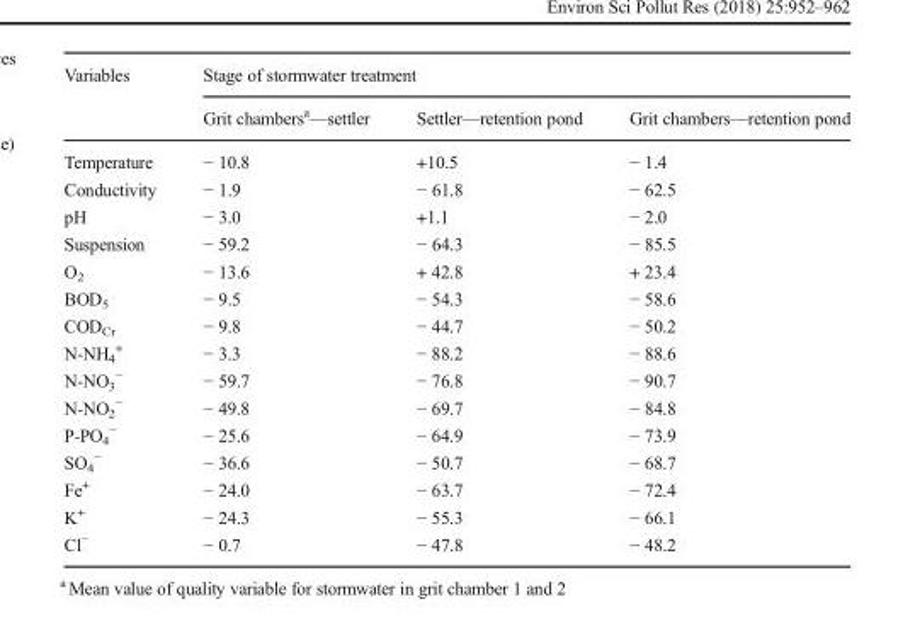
<table><thead><tr><td rowspan="2">Variables</td><td colspan="3">Stage of stormwater treatment</td></tr><tr><td>Grit chambers<sup>a</sup>—settler</td><td>Settler—retention pond</td><td>Grit chambers—retention pond</td></tr></thead><tbody><tr><td>Temperature</td><td>− 10.8</td><td>+10.5</td><td>− 1.4</td></tr><tr><td>Conductivity</td><td>− 1.9</td><td>− 61.8</td><td>− 62.5</td></tr><tr><td>pH</td><td>− 3.0</td><td>+1.1</td><td>− 2.0</td></tr><tr><td>Suspension</td><td>− 59.2</td><td>− 64.3</td><td>− 85.5</td></tr><tr><td>O<sub>2</sub></td><td>− 13.6</td><td>+ 42.8</td><td>+ 23.4</td></tr><tr><td>BOD<sub>5</sub></td><td>− 9.5</td><td>− 54.3</td><td>− 58.6</td></tr><tr><td>COD<sub>Cr</sub></td><td>− 9.8</td><td>− 44.7</td><td>− 50.2</td></tr><tr><td>N-NH<sub>4</sub> <sup>+</sup></td><td>− 3.3</td><td>− 88.2</td><td>− 88.6</td></tr><tr><td>N-NO<sub>3</sub> <sup>−</sup></td><td>− 59.7</td><td>− 76.8</td><td>− 90.7</td></tr><tr><td>N-NO<sub>2</sub> <sup>−</sup></td><td>− 49.8</td><td>− 69.7</td><td>− 84.8</td></tr><tr><td>P-PO<sub>4</sub> <sup>−</sup></td><td>− 25.6</td><td>− 64.9</td><td>− 73.9</td></tr><tr><td>SO<sub>4</sub> <sup>−</sup></td><td>− 36.6</td><td>− 50.7</td><td>− 68.7</td></tr><tr><td>Fe<sup>+</sup></td><td>− 24.0</td><td>− 63.7</td><td>− 72.4</td></tr><tr><td>K<sup>+</sup></td><td>− 24.3</td><td>− 55.3</td><td>− 66.1</td></tr><tr><td>Cl<sup>−</sup></td><td>− 0.7</td><td>− 47.8</td><td>− 48.2</td></tr></tbody></table>